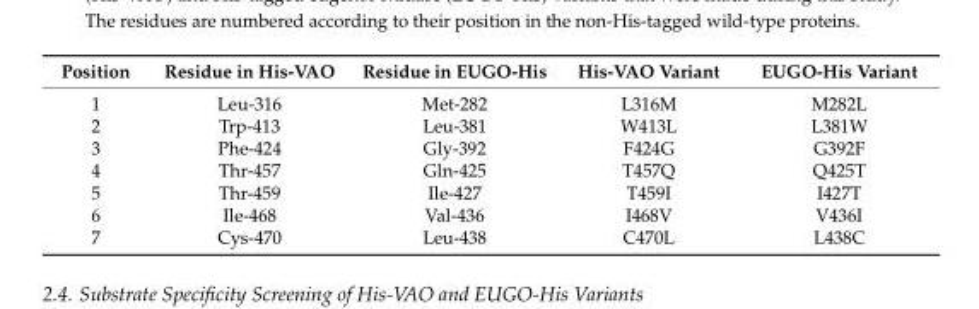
<table><thead><tr><td>Position</td><td>Residue in His-VAO</td><td>Residue in EUGO-His</td><td>His-VAO Variant</td><td>EUGO-His Variant</td></tr></thead><tbody><tr><td>1</td><td>Leu-316</td><td>Met-282</td><td>L316M</td><td>M282L</td></tr><tr><td>2</td><td>Trp-413</td><td>Leu-381</td><td>W413L</td><td>L381W</td></tr><tr><td>3</td><td>Phe-424</td><td>Gly-392</td><td>F424G</td><td>G392F</td></tr><tr><td>4</td><td>Thr-457</td><td>Gln-425</td><td>T457Q</td><td>Q425T</td></tr><tr><td>5</td><td>Thr-459</td><td>Ile-427</td><td>T459I</td><td>I427T</td></tr><tr><td>6</td><td>Ile-468</td><td>Val-436</td><td>I468V</td><td>V436I</td></tr><tr><td>7</td><td>Cys-470</td><td>Leu-438</td><td>C470L</td><td>L438C</td></tr></tbody></table>